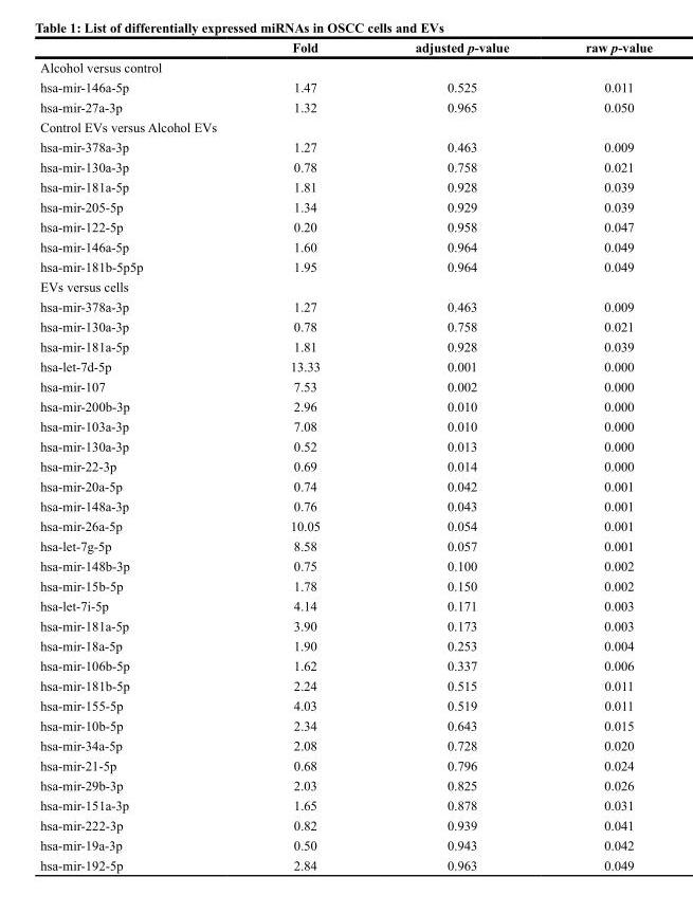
<table><thead><tr><td></td><td>Fold</td><td>adjusted p-value</td><td>raw p-value</td></tr></thead><tbody><tr><td colspan="4">Alcohol versus control</td></tr><tr><td>hsa-mir-146a-5p</td><td>1.47</td><td>0.525</td><td>0.011</td></tr><tr><td>hsa-mir-27a-3p</td><td>1.32</td><td>0.965</td><td>0.050</td></tr><tr><td colspan="4">Control EVs versus Alcohol EVs</td></tr><tr><td>hsa-mir-378a-3p</td><td>1.27</td><td>0.463</td><td>0.009</td></tr><tr><td>hsa-mir-130a-3p</td><td>0.78</td><td>0.758</td><td>0.021</td></tr><tr><td>hsa-mir-181a-5p</td><td>1.81</td><td>0.928</td><td>0.039</td></tr><tr><td>hsa-mir-205-5p</td><td>1.34</td><td>0.929</td><td>0.039</td></tr><tr><td>hsa-mir-122-5p</td><td>0.20</td><td>0.958</td><td>0.047</td></tr><tr><td>hsa-mir-146a-5p</td><td>1.60</td><td>0.964</td><td>0.049</td></tr><tr><td>hsa-mir-181b-5p5p</td><td>1.95</td><td>0.964</td><td>0.049</td></tr><tr><td colspan="4">EVs versus cells</td></tr><tr><td>hsa-mir-378a-3p</td><td>1.27</td><td>0.463</td><td>0.009</td></tr><tr><td>hsa-mir-130a-3p</td><td>0.78</td><td>0.758</td><td>0.021</td></tr><tr><td>hsa-mir-181a-5p</td><td>1.81</td><td>0.928</td><td>0.039</td></tr><tr><td>hsa-let-7d-5p</td><td>13.33</td><td>0.001</td><td>0.000</td></tr><tr><td>hsa-mir-107</td><td>7.53</td><td>0.002</td><td>0.000</td></tr><tr><td>hsa-mir-200b-3p</td><td>2.96</td><td>0.010</td><td>0.000</td></tr><tr><td>hsa-mir-103a-3p</td><td>7.08</td><td>0.010</td><td>0.000</td></tr><tr><td>hsa-mir-130a-3p</td><td>0.52</td><td>0.013</td><td>0.000</td></tr><tr><td>hsa-mir-22-3p</td><td>0.69</td><td>0.014</td><td>0.000</td></tr><tr><td>hsa-mir-20a-5p</td><td>0.74</td><td>0.042</td><td>0.001</td></tr><tr><td>hsa-mir-148a-3p</td><td>0.76</td><td>0.043</td><td>0.001</td></tr><tr><td>hsa-mir-26a-5p</td><td>10.05</td><td>0.054</td><td>0.001</td></tr><tr><td>hsa-let-7g-5p</td><td>8.58</td><td>0.057</td><td>0.001</td></tr><tr><td>hsa-mir-148b-3p</td><td>0.75</td><td>0.100</td><td>0.002</td></tr><tr><td>hsa-mir-15b-5p</td><td>1.78</td><td>0.150</td><td>0.002</td></tr><tr><td>hsa-let-7i-5p</td><td>4.14</td><td>0.171</td><td>0.003</td></tr><tr><td>hsa-mir-181a-5p</td><td>3.90</td><td>0.173</td><td>0.003</td></tr><tr><td>hsa-mir-18a-5p</td><td>1.90</td><td>0.253</td><td>0.004</td></tr><tr><td>hsa-mir-106b-5p</td><td>1.62</td><td>0.337</td><td>0.006</td></tr><tr><td>hsa-mir-181b-5p</td><td>2.24</td><td>0.515</td><td>0.011</td></tr><tr><td>hsa-mir-155-5p</td><td>4.03</td><td>0.519</td><td>0.011</td></tr><tr><td>hsa-mir-10b-5p</td><td>2.34</td><td>0.643</td><td>0.015</td></tr><tr><td>hsa-mir-34a-5p</td><td>2.08</td><td>0.728</td><td>0.020</td></tr><tr><td>hsa-mir-21-5p</td><td>0.68</td><td>0.796</td><td>0.024</td></tr><tr><td>hsa-mir-29b-3p</td><td>2.03</td><td>0.825</td><td>0.026</td></tr><tr><td>hsa-mir-151a-3p</td><td>1.65</td><td>0.878</td><td>0.031</td></tr><tr><td>hsa-mir-222-3p</td><td>0.82</td><td>0.939</td><td>0.041</td></tr><tr><td>hsa-mir-19a-3p</td><td>0.50</td><td>0.943</td><td>0.042</td></tr><tr><td>hsa-mir-192-5p</td><td>2.84</td><td>0.963</td><td>0.049</td></tr></tbody></table>